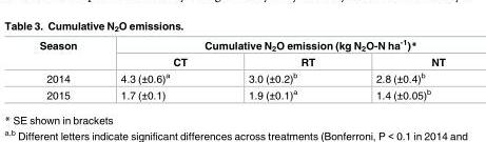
<table><thead><tr><td rowspan="2">Season</td><td colspan="3">Cumulative N<sub>2</sub>O emission (kg N<sub>2</sub>O-N ha<sup>-1</sup>)*</td></tr><tr><td>CT</td><td>RT</td><td>NT</td></tr></thead><tbody><tr><td>2014</td><td>4.3 (±0.6)<sup>a</sup></td><td>3.0 (±0.2)<sup>b</sup></td><td>2.8 (±0.4)<sup>b</sup></td></tr><tr><td>2015</td><td>1.7 (±0.1)</td><td>1.9 (±0.1)<sup>a</sup></td><td>1.4 (±0.05)<sup>b</sup></td></tr></tbody></table>